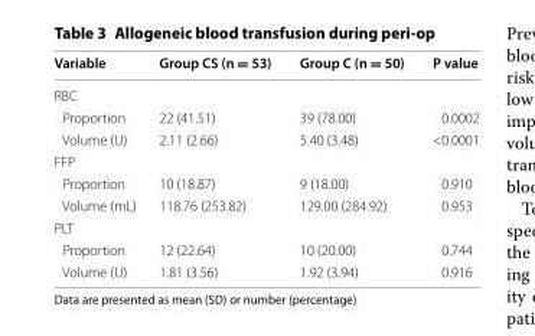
<table><thead><tr><td>Variable</td><td>Group CS (n = 53)</td><td>Group C (n = 50)</td><td>P value</td></tr></thead><tbody><tr><td colspan="4">RBC</td></tr><tr><td>Proportion</td><td>22 (41.51)</td><td>39 (78.00)</td><td>0.0002</td></tr><tr><td>Volume (U)</td><td>2.11 (2.66)</td><td>5.40 (3.48)</td><td>&lt;0.0001</td></tr><tr><td colspan="4">FFP</td></tr><tr><td>Proportion</td><td>10 (18.87)</td><td>9 (18.00)</td><td>0.910</td></tr><tr><td>Volume (mL)</td><td>118.76 (253.82)</td><td>129.00 (284.92)</td><td>0.953</td></tr><tr><td colspan="4">PLT</td></tr><tr><td>Proportion</td><td>12 (22.64)</td><td>10 (20.00)</td><td>0.744</td></tr><tr><td>Volume (U)</td><td>1.81 (3.56)</td><td>1.92 (3.94)</td><td>0.916</td></tr></tbody></table>